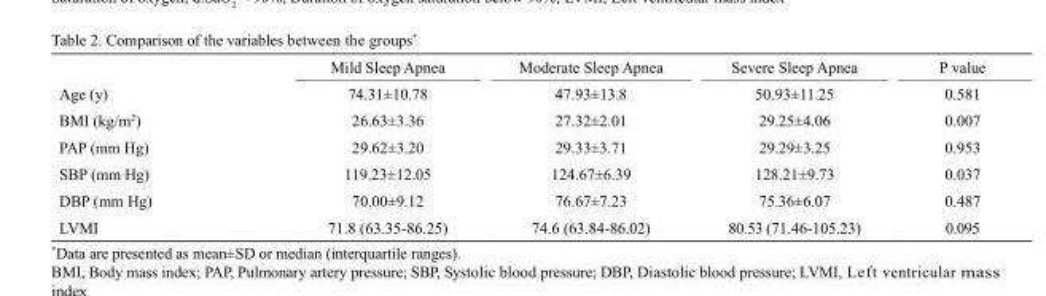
<table><thead><tr><td></td><td>Mild Sleep Apnea</td><td>Moderate Sleep Apnea</td><td>Severe Sleep Apnea</td><td>P value</td></tr></thead><tbody><tr><td>Age (y)</td><td>74.31±10.78</td><td>47.93±13.8</td><td>50.93±11.25</td><td>0.581</td></tr><tr><td>BMI (kg/m<sup>2</sup>)</td><td>26.63±3.36</td><td>27.32±2.01</td><td>29.25±4.06</td><td>0.007</td></tr><tr><td>PAP (mm Hg)</td><td>29.62±3.20</td><td>29.33±3.71</td><td>29.29±3.25</td><td>0.953</td></tr><tr><td>SBP (mm Hg)</td><td>119.23±12.05</td><td>124.67±6.39</td><td>128.21±9.73</td><td>0.037</td></tr><tr><td>DBP (mm Hg)</td><td>70.00±9.12</td><td>76.67±7.23</td><td>75.36±6.07</td><td>0.487</td></tr><tr><td>LVMI</td><td>71.8 (63.35-86.25)</td><td>74.6 (63.84-86.02)</td><td>80.53 (71.46-105.23)</td><td>0.095</td></tr></tbody></table>